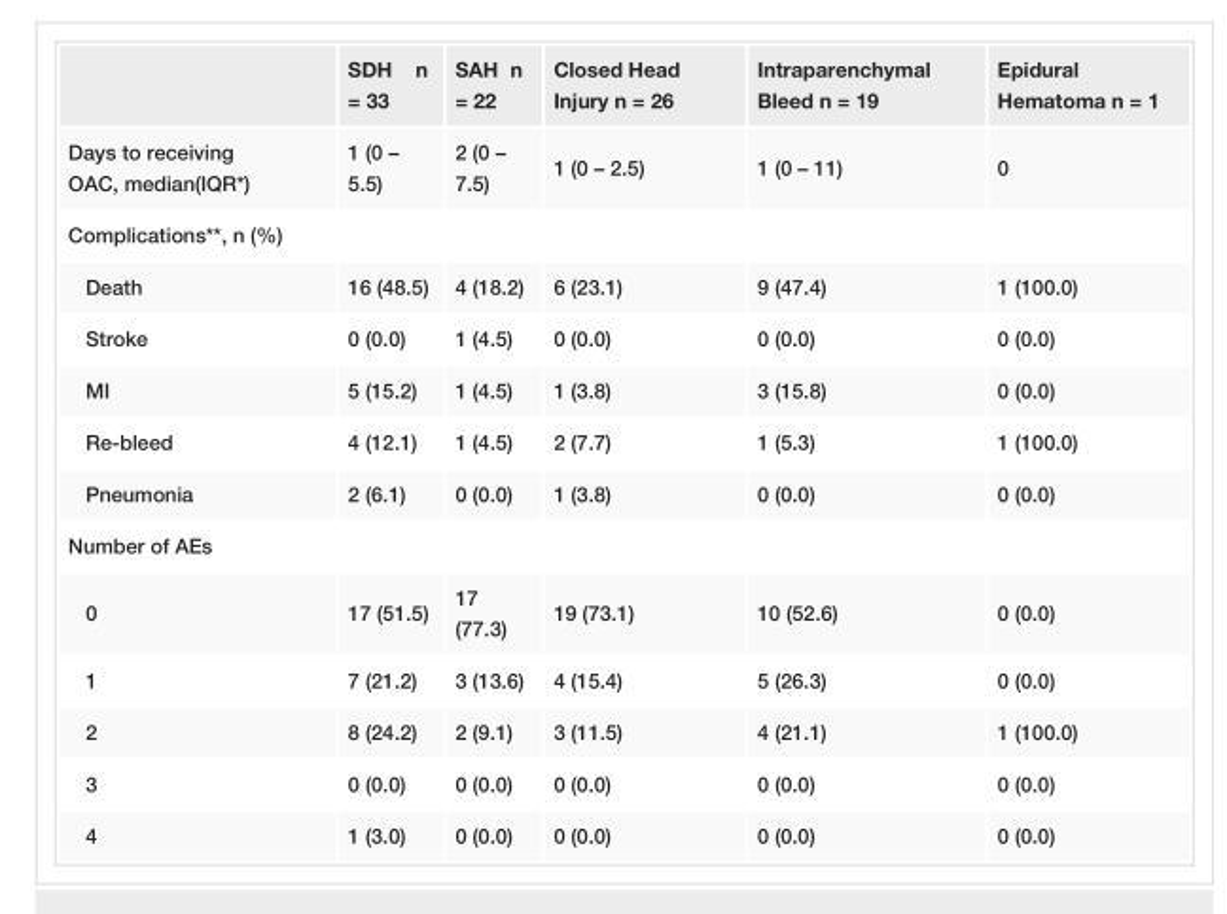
<table><thead><tr><td></td><td>SDH n = 33</td><td>SAH n = 22</td><td>Closed Head Injury n = 26</td><td>Intraparenchymal Bleed n = 19</td><td>Epidural Hematoma n = 1</td></tr></thead><tbody><tr><td>Days to receiving OAC, median(IQR*)</td><td>1 (0 – 5.5)</td><td>2 (0 – 7.5)</td><td>1 (0 – 2.5)</td><td>1 (0 – 11)</td><td>0</td></tr><tr><td colspan="6">Complications**, n (%)</td></tr><tr><td>Death</td><td>16 (48.5)</td><td>4 (18.2)</td><td>6 (23.1)</td><td>9 (47.4)</td><td>1 (100.0)</td></tr><tr><td>Stroke</td><td>0 (0.0)</td><td>1 (4.5)</td><td>0 (0.0)</td><td>0 (0.0)</td><td>0 (0.0)</td></tr><tr><td>MI</td><td>5 (15.2)</td><td>1 (4.5)</td><td>1 (3.8)</td><td>3 (15.8)</td><td>0 (0.0)</td></tr><tr><td>Re-bleed</td><td>4 (12.1)</td><td>1 (4.5)</td><td>2 (7.7)</td><td>1 (5.3)</td><td>1 (100.0)</td></tr><tr><td>Pneumonia</td><td>2 (6.1)</td><td>0 (0.0)</td><td>1 (3.8)</td><td>0 (0.0)</td><td>0 (0.0)</td></tr><tr><td colspan="6">Number of AEs</td></tr><tr><td>0</td><td>17 (51.5)</td><td>17 (77.3)</td><td>19 (73.1)</td><td>10 (52.6)</td><td>0 (0.0)</td></tr><tr><td>1</td><td>7 (21.2)</td><td>3 (13.6)</td><td>4 (15.4)</td><td>5 (26.3)</td><td>0 (0.0)</td></tr><tr><td>2</td><td>8 (24.2)</td><td>2 (9.1)</td><td>3 (11.5)</td><td>4 (21.1)</td><td>1 (100.0)</td></tr><tr><td>3</td><td>0 (0.0)</td><td>0 (0.0)</td><td>0 (0.0)</td><td>0 (0.0)</td><td>0 (0.0)</td></tr><tr><td>4</td><td>1 (3.0)</td><td>0 (0.0)</td><td>0 (0.0)</td><td>0 (0.0)</td><td>0 (0.0)</td></tr></tbody></table>